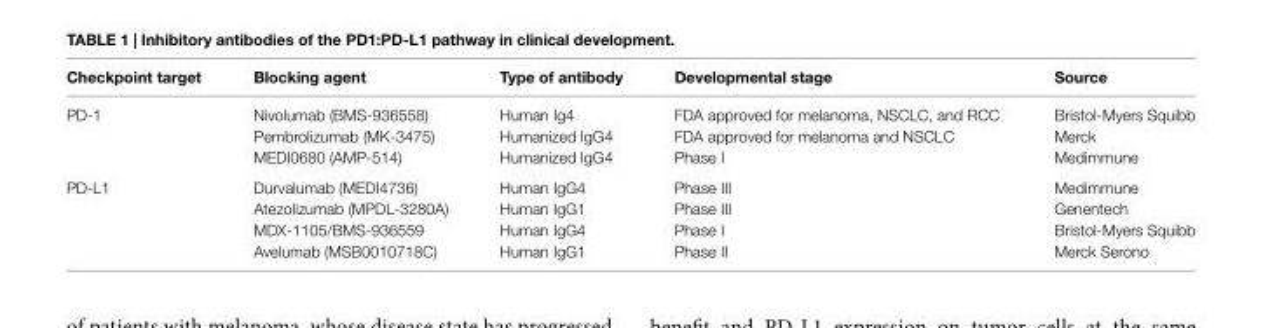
<table><thead><tr><td>Checkpoint target</td><td>Blocking agent</td><td>Type of antibody</td><td>Developmental stage</td><td>Source</td></tr></thead><tbody><tr><td rowspan="3">PD-1</td><td>Nivolumab (BMS-936558)</td><td>Human Ig4</td><td>FDA approved for melanoma, NSCLC, and RCC</td><td>Bristol-Myers Squibb</td></tr><tr><td>Pembrolizumab (MK-3475)</td><td>Humanized IgG4</td><td>FDA approved for melanoma and NSCLC</td><td>Merck</td></tr><tr><td>MEDI0680 (AMP-514)</td><td>Humanized IgG4</td><td>Phase I</td><td>Medimmune</td></tr><tr><td rowspan="4">PD-L1</td><td>Durvalumab (MEDI4736)</td><td>Human IgG4</td><td>Phase III</td><td>Medimmune</td></tr><tr><td>Atezolizumab (MPDL-3280A)</td><td>Human IgG1</td><td>Phase III</td><td>Genentech</td></tr><tr><td>MDX-1105/BMS-936559</td><td>Human IgG4</td><td>Phase I</td><td>Bristol-Myers Squibb</td></tr><tr><td>Avelumab (MSB0010718C)</td><td>Human IgG1</td><td>Phase II</td><td>Merck Serono</td></tr></tbody></table>